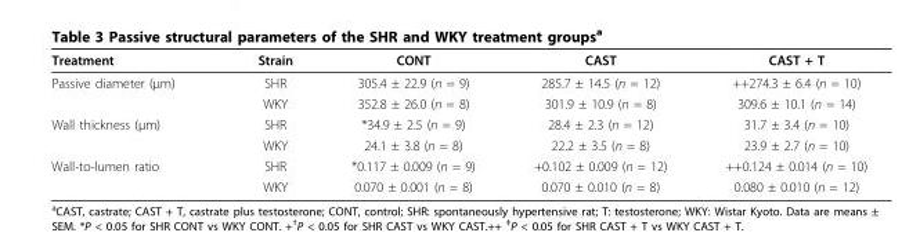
<table><thead><tr><td>Treatment</td><td>Strain</td><td>CONT</td><td>CAST</td><td>CAST + T</td></tr></thead><tbody><tr><td rowspan="2">Passive diameter (μm)</td><td>SHR</td><td>305.4 ± 22.9 (n = 9)</td><td>285.7 ± 14.5 (n = 12)</td><td>++274.3 ± 6.4 (n = 10)</td></tr><tr><td>WKY</td><td>352.8 ± 26.0 (n = 8)</td><td>301.9 ± 10.9 (n = 8)</td><td>309.6 ± 10.1 (n = 14)</td></tr><tr><td rowspan="2">Wall thickness (μm)</td><td>SHR</td><td>*34.9 ± 2.5 (n = 9)</td><td>28.4 ± 2.3 (n = 12)</td><td>31.7 ± 3.4 (n = 10)</td></tr><tr><td>WKY</td><td>24.1 ± 3.8 (n = 8)</td><td>22.2 ± 3.5 (n = 8)</td><td>23.9 ± 2.7 (n = 10)</td></tr><tr><td rowspan="2">Wall-to-lumen ratio</td><td>SHR</td><td>*0.117 ± 0.009 (n = 9)</td><td>+0.102 ± 0.009 (n = 12)</td><td>++0.124 ± 0.014 (n = 10)</td></tr><tr><td>WKY</td><td>0.070 ± 0.001 (n = 8)</td><td>0.070 ± 0.010 (n = 8)</td><td>0.080 ± 0.010 (n = 12)</td></tr></tbody></table>